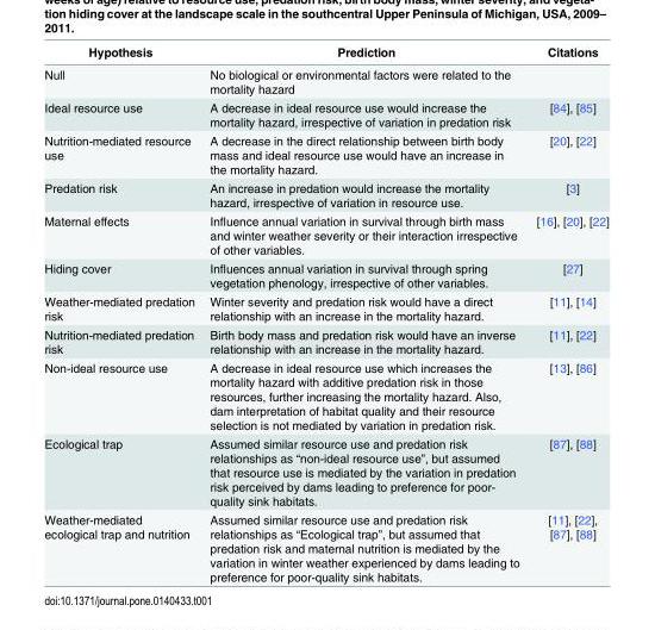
<table><thead><tr><td>Hypothesis</td><td>Prediction</td><td>Citations</td></tr></thead><tbody><tr><td>Null</td><td>No biological or environmental factors were related to the mortality hazard</td><td></td></tr><tr><td>Ideal resource use</td><td>A decrease in ideal resource use would increase the mortality hazard, irrespective of variation in predation risk</td><td>[84], [85]</td></tr><tr><td>Nutrition-mediated resource use</td><td>A decrease in the direct relationship between birth body mass and ideal resource use would have an increase in the mortality hazard.</td><td>[20], [22]</td></tr><tr><td>Predation risk</td><td>An increase in predation would increase the mortality hazard, irrespective of variation in resource use.</td><td>[3]</td></tr><tr><td>Maternal effects</td><td>Influence annual variation in survival through birth mass and winter weather severity or their interaction irrespective of other variables.</td><td>[16], [20], [22]</td></tr><tr><td>Hiding cover</td><td>Influences annual variation in survival through spring vegetation phenology, irrespective of other variables.</td><td>[27]</td></tr><tr><td>Weather-mediated predation risk</td><td>Winter severity and predation risk would have a direct relationship with an increase in the mortality hazard.</td><td>[11], [14]</td></tr><tr><td>Nutrition-mediated predation risk</td><td>Birth body mass and predation risk would have an inverse relationship with an increase in the mortality hazard.</td><td>[11], [22]</td></tr><tr><td>Non-ideal resource use</td><td>A decrease in ideal resource use which increases the mortality hazard with additive predation risk in those resources, further increasing the mortality hazard. Also, dam interpretation of habitat quality and their resource selection is not mediated by variation in predation risk.</td><td>[13], [86]</td></tr><tr><td>Ecological trap</td><td>Assumed similar resource use and predation risk relationships as “non-ideal resource use”, but assumed that resource use is mediated by the variation in predation risk perceived by dams leading to preference for poor- quality sink habitats.</td><td>[87], [88]</td></tr><tr><td>Weather-mediated ecological trap and nutrition</td><td>Assumed similar resource use and predation risk relationships as “Ecological trap”, but assumed that predation risk and maternal nutrition is mediated by the variation in winter weather experienced by dams leading to preference for poor-quality sink habitats.</td><td>[11], [22], [87], [88]</td></tr></tbody></table>